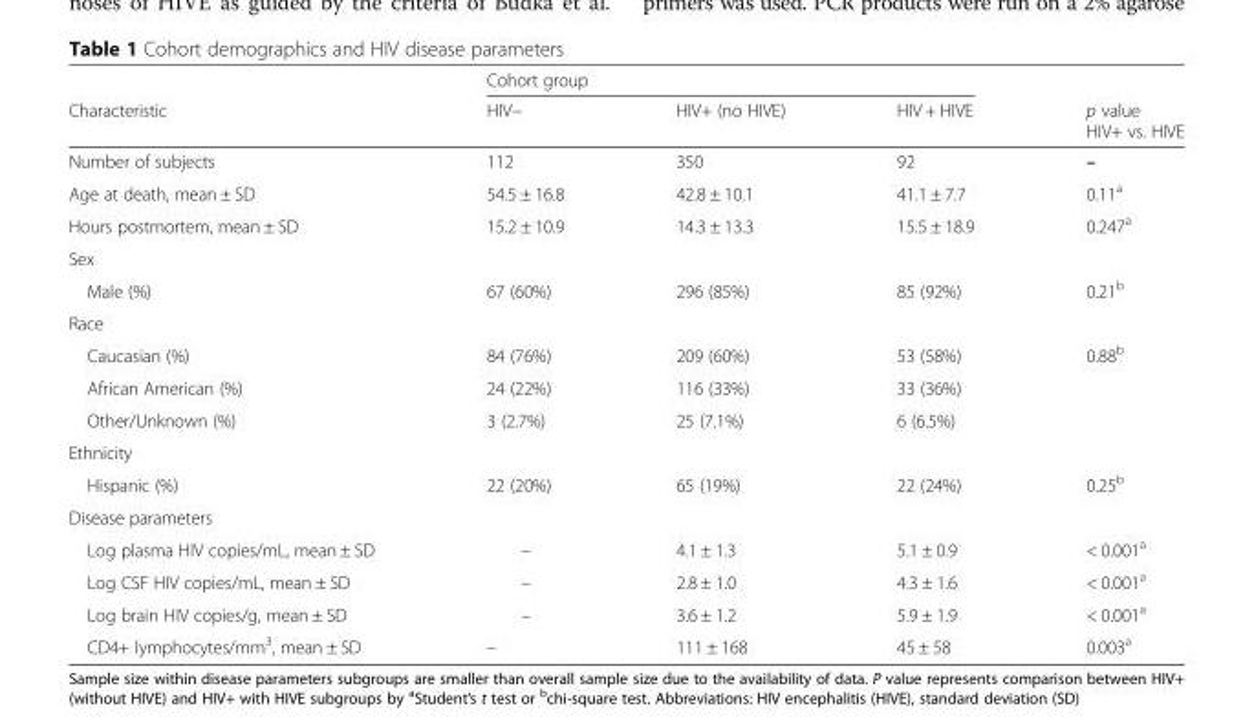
<table><thead><tr><td rowspan="2">Characteristic</td><td colspan="3">Cohort group</td><td rowspan="2">p value HIV+ vs. HIVE</td></tr><tr><td>HIV−</td><td>HIV+ (no HIVE)</td><td>HIV + HIVE</td></tr></thead><tbody><tr><td>Number of subjects</td><td>112</td><td>350</td><td>92</td><td>–</td></tr><tr><td>Age at death, mean ± SD</td><td>54.5 ± 16.8</td><td>42.8 ± 10.1</td><td>41.1 ± 7.7</td><td>0.11<sup>a</sup></td></tr><tr><td>Hours postmortem, mean ± SD</td><td>15.2 ± 10.9</td><td>14.3 ± 13.3</td><td>15.5 ± 18.9</td><td>0.247<sup>a</sup></td></tr><tr><td colspan="5">Sex</td></tr><tr><td>Male (%)</td><td>67 (60%)</td><td>296 (85%)</td><td>85 (92%)</td><td>0.21<sup>b</sup></td></tr><tr><td colspan="5">Race</td></tr><tr><td>Caucasian (%)</td><td>84 (76%)</td><td>209 (60%)</td><td>53 (58%)</td><td rowspan="3">0.88<sup>b</sup></td></tr><tr><td>African American (%)</td><td>24 (22%)</td><td>116 (33%)</td><td>33 (36%)</td></tr><tr><td>Other/Unknown (%)</td><td>3 (2.7%)</td><td>25 (7.1%)</td><td>6 (6.5%)</td></tr><tr><td colspan="5">Ethnicity</td></tr><tr><td>Hispanic (%)</td><td>22 (20%)</td><td>65 (19%)</td><td>22 (24%)</td><td>0.25<sup>b</sup></td></tr><tr><td colspan="5">Disease parameters</td></tr><tr><td>Log plasma HIV copies/mL, mean ± SD</td><td>–</td><td>4.1 ± 1.3</td><td>5.1 ± 0.9</td><td>&lt; 0.001<sup>a</sup></td></tr><tr><td>Log CSF HIV copies/mL, mean ± SD</td><td>–</td><td>2.8 ± 1.0</td><td>4.3 ± 1.6</td><td>&lt; 0.001<sup>a</sup></td></tr><tr><td>Log brain HIV copies/g, mean ± SD</td><td>–</td><td>3.6 ± 1.2</td><td>5.9 ± 1.9</td><td>&lt; 0.001<sup>a</sup></td></tr><tr><td>CD4+ lymphocytes/mm<sup>3</sup>, mean ± SD</td><td>–</td><td>111 ± 168</td><td>45 ± 58</td><td>0.003<sup>a</sup></td></tr></tbody></table>